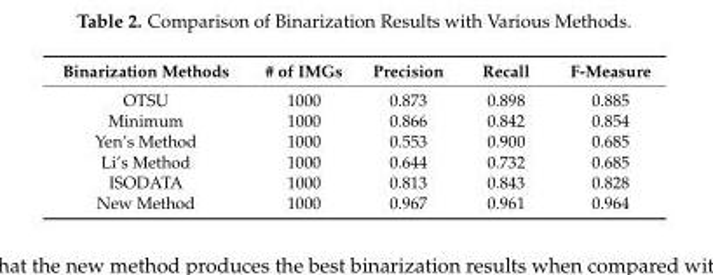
<table><thead><tr><td>Binarization Methods</td><td># of IMGs</td><td>Precision</td><td>Recall</td><td>F-Measure</td></tr></thead><tbody><tr><td>OTSU</td><td>1000</td><td>0.873</td><td>0.898</td><td>0.885</td></tr><tr><td>Minimum</td><td>1000</td><td>0.866</td><td>0.842</td><td>0.854</td></tr><tr><td>Yen’s Method</td><td>1000</td><td>0.553</td><td>0.900</td><td>0.685</td></tr><tr><td>Li’s Method</td><td>1000</td><td>0.644</td><td>0.732</td><td>0.685</td></tr><tr><td>ISODATA</td><td>1000</td><td>0.813</td><td>0.843</td><td>0.828</td></tr><tr><td>New Method</td><td>1000</td><td>0.967</td><td>0.961</td><td>0.964</td></tr></tbody></table>